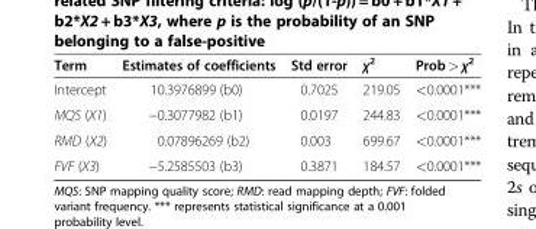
<table><thead><tr><td>Term</td><td>Estimates of coefficients</td><td>Std error</td><td>χ<sup>2</sup></td><td>Prob &gt; χ<sup>2</sup></td></tr></thead><tbody><tr><td>Intercept</td><td>10.3976899 (b0)</td><td>0.7025</td><td>219.05</td><td>&lt;0.0001***</td></tr><tr><td>MQS (X1)</td><td>−0.3077982 (b1)</td><td>0.0197</td><td>244.83</td><td>&lt;0.0001***</td></tr><tr><td>RMD (X2)</td><td>0.07896269 (b2)</td><td>0.003</td><td>699.67</td><td>&lt;0.0001***</td></tr><tr><td>FVF (X3)</td><td>−5.2585503 (b3)</td><td>0.3871</td><td>184.57</td><td>&lt;0.0001***</td></tr></tbody></table>